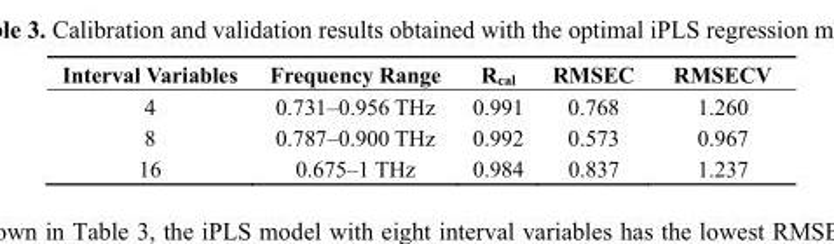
<table><thead><tr><td>Interval Variables</td><td>Frequency Range</td><td>R<sub>cal</sub></td><td>RMSEC</td><td>RMSECV</td></tr></thead><tbody><tr><td>4</td><td>0.731–0.956 THz</td><td>0.991</td><td>0.768</td><td>1.260</td></tr><tr><td>8</td><td>0.787–0.900 THz</td><td>0.992</td><td>0.573</td><td>0.967</td></tr><tr><td>16</td><td>0.675–1 THz</td><td>0.984</td><td>0.837</td><td>1.237</td></tr></tbody></table>